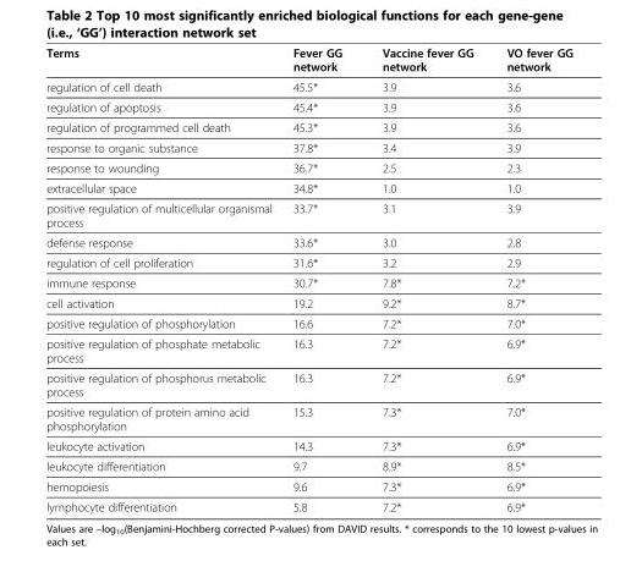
<table><thead><tr><td>Terms</td><td>Fever GG network</td><td>Vaccine fever GG network</td><td>VO fever GG network</td></tr></thead><tbody><tr><td>regulation of cell death</td><td>45.5*</td><td>3.9</td><td>3.6</td></tr><tr><td>regulation of apoptosis</td><td>45.4*</td><td>3.9</td><td>3.6</td></tr><tr><td>regulation of programmed cell death</td><td>45.3*</td><td>3.9</td><td>3.6</td></tr><tr><td>response to organic substance</td><td>37.8*</td><td>3.4</td><td>3.9</td></tr><tr><td>response to wounding</td><td>36.7*</td><td>2.5</td><td>2.3</td></tr><tr><td>extracellular space</td><td>34.8*</td><td>1.0</td><td>1.0</td></tr><tr><td>positive regulation of multicellular organismal process</td><td>33.7*</td><td>3.1</td><td>3.9</td></tr><tr><td>defense response</td><td>33.6*</td><td>3.0</td><td>2.8</td></tr><tr><td>regulation of cell proliferation</td><td>31.6*</td><td>3.2</td><td>2.9</td></tr><tr><td>immune response</td><td>30.7*</td><td>7.8*</td><td>7.2*</td></tr><tr><td>cell activation</td><td>19.2</td><td>9.2*</td><td>8.7*</td></tr><tr><td>positive regulation of phosphorylation</td><td>16.6</td><td>7.2*</td><td>7.0*</td></tr><tr><td>positive regulation of phosphate metabolic process</td><td>16.3</td><td>7.2*</td><td>6.9*</td></tr><tr><td>positive regulation of phosphorus metabolic process</td><td>16.3</td><td>7.2*</td><td>6.9*</td></tr><tr><td>positive regulation of protein amino acid phosphorylation</td><td>15.3</td><td>7.3*</td><td>7.0*</td></tr><tr><td>leukocyte activation</td><td>14.3</td><td>7.3*</td><td>6.9*</td></tr><tr><td>leukocyte differentiation</td><td>9.7</td><td>8.9*</td><td>8.5*</td></tr><tr><td>hemopoiesis</td><td>9.6</td><td>7.3*</td><td>6.9*</td></tr><tr><td>lymphocyte differentiation</td><td>5.8</td><td>7.2*</td><td>6.9*</td></tr></tbody></table>